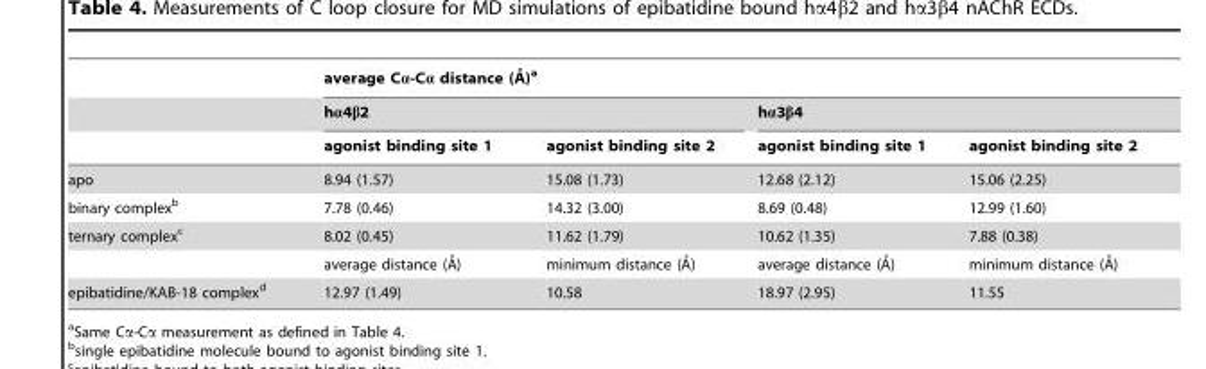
<table><thead><tr><td rowspan="3"></td><td colspan="4">average Ca-Ca distance (A˚ )a</td></tr><tr><td colspan="2">hα4β2</td><td colspan="2">hα3β4</td></tr><tr><td>agonist binding site 1</td><td>agonist binding site 2</td><td>agonist binding site 1</td><td>agonist binding site 2</td></tr></thead><tbody><tr><td>apo</td><td>8.94 (1.57)</td><td>15.08 (1.73)</td><td>12.68 (2.12)</td><td>15.06 (2.25)</td></tr><tr><td>binary complex<sup>b</sup></td><td>7.78 (0.46)</td><td>14.32 (3.00)</td><td>8.69 (0.48)</td><td>12.99 (1.60)</td></tr><tr><td rowspan="2">ternary complex<sup>c</sup></td><td>8.02 (0.45)</td><td>11.62 (1.79)</td><td>10.62 (1.35)</td><td>7.88 (0.38)</td></tr><tr><td>average distance (A˚)</td><td>minimum distance (A˚)</td><td>average distance (A˚)</td><td>minimum distance (A˚)</td></tr><tr><td>epibatidine/KAB-18 complex<sup>d</sup></td><td>12.97 (1.49)</td><td>10.58</td><td>18.97 (2.95)</td><td>11.55</td></tr></tbody></table>